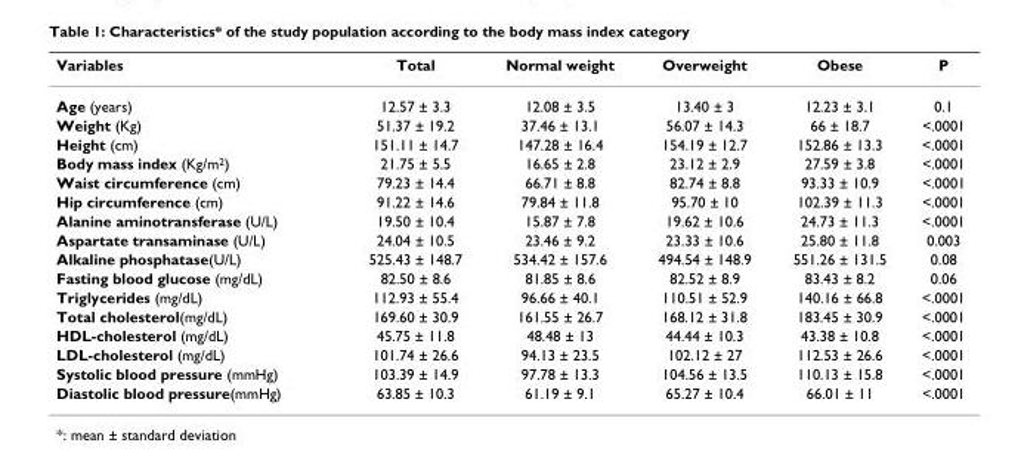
<table><thead><tr><td>Variables</td><td>Total</td><td>Normal weight</td><td>Overweight</td><td>Obese</td><td>P</td></tr></thead><tbody><tr><td>Age (years)</td><td>12.57 ± 3.3</td><td>12.08 ± 3.5</td><td>13.40 ± 3</td><td>12.23 ± 3.1</td><td>0.1</td></tr><tr><td>Weight (Kg)</td><td>51.37 ± 19.2</td><td>37.46 ± 13.1</td><td>56.07 ± 14.3</td><td>66 ± 18.7</td><td>&lt;.0001</td></tr><tr><td>Height (cm)</td><td>151.11 ± 14.7</td><td>147.28 ± 16.4</td><td>154.19 ± 12.7</td><td>152.86 ± 13.3</td><td>&lt;.0001</td></tr><tr><td>Body mass index (Kg/m<sup>2</sup>)</td><td>21.75 ± 5.5</td><td>16.65 ± 2.8</td><td>23.12 ± 2.9</td><td>27.59 ± 3.8</td><td>&lt;.0001</td></tr><tr><td>Waist circumference (cm)</td><td>79.23 ± 14.4</td><td>66.71 ± 8.8</td><td>82.74 ± 8.8</td><td>93.33 ± 10.9</td><td>&lt;.0001</td></tr><tr><td>Hip circumference (cm)</td><td>91.22 ± 14.6</td><td>79.84 ± 11.8</td><td>95.70 ± 10</td><td>102.39 ± 11.3</td><td>&lt;.0001</td></tr><tr><td>Alanine aminotransferase (U/L)</td><td>19.50 ± 10.4</td><td>15.87 ± 7.8</td><td>19.62 ± 10.6</td><td>24.73 ± 11.3</td><td>&lt;.0001</td></tr><tr><td>Aspartate transaminase (U/L)</td><td>24.04 ± 10.5</td><td>23.46 ± 9.2</td><td>23.33 ± 10.6</td><td>25.80 ± 11.8</td><td>0.003</td></tr><tr><td>Alkaline phosphatase(U/L)</td><td>525.43 ± 148.7</td><td>534.42 ± 157.6</td><td>494.54 ± 148.9</td><td>551.26 ± 131.5</td><td>0.08</td></tr><tr><td>Fasting blood glucose (mg/dL)</td><td>82.50 ± 8.6</td><td>81.85 ± 8.6</td><td>82.52 ± 8.9</td><td>83.43 ± 8.2</td><td>0.06</td></tr><tr><td>Triglycerides (mg/dL)</td><td>112.93 ± 55.4</td><td>96.66 ± 40.1</td><td>110.51 ± 52.9</td><td>140.16 ± 66.8</td><td>&lt;.0001</td></tr><tr><td>Total cholesterol(mg/dL)</td><td>169.60 ± 30.9</td><td>161.55 ± 26.7</td><td>168.12 ± 31.8</td><td>183.45 ± 30.9</td><td>&lt;.0001</td></tr><tr><td>HDL-cholesterol (mg/dL)</td><td>45.75 ± 11.8</td><td>48.48 ± 13</td><td>44.44 ± 10.3</td><td>43.38 ± 10.8</td><td>&lt;.0001</td></tr><tr><td>LDL-cholesterol (mg/dL)</td><td>101.74 ± 26.6</td><td>94.13 ± 23.5</td><td>102.12 ± 27</td><td>112.53 ± 26.6</td><td>&lt;.0001</td></tr><tr><td>Systolic blood pressure (mmHg)</td><td>103.39 ± 14.9</td><td>97.78 ± 13.3</td><td>104.56 ± 13.5</td><td>110.13 ± 15.8</td><td>&lt;.0001</td></tr><tr><td>Diastolic blood pressure(mmHg)</td><td>63.85 ± 10.3</td><td>61.19 ± 9.1</td><td>65.27 ± 10.4</td><td>66.01 ± 11</td><td>&lt;.0001</td></tr></tbody></table>